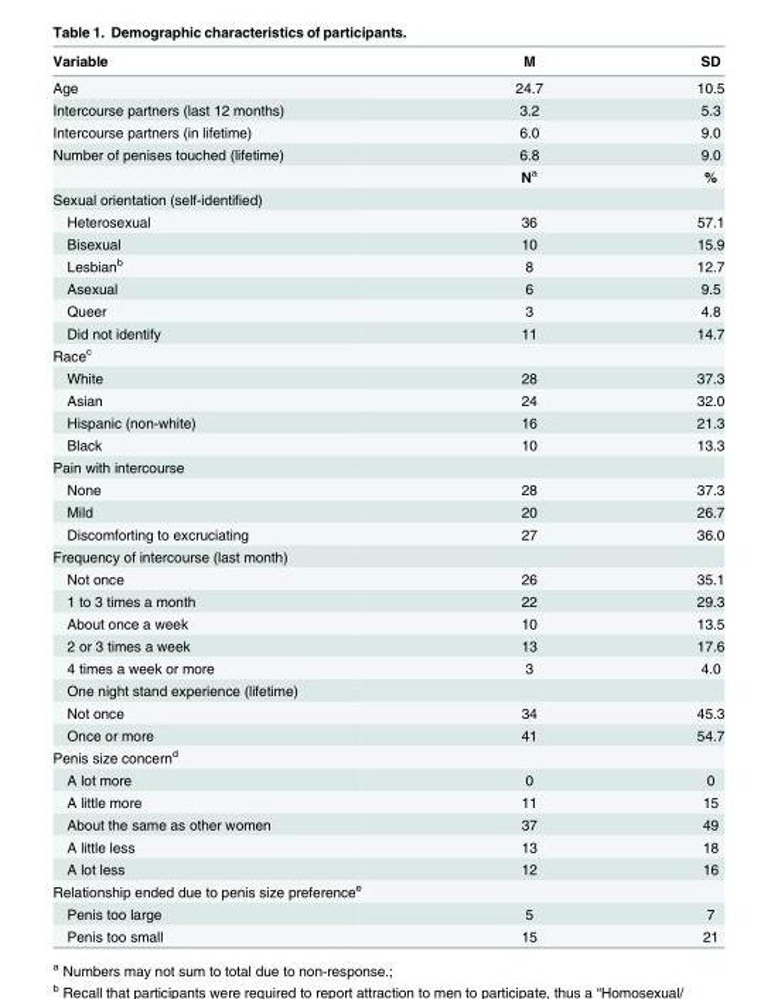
<table><thead><tr><td>Variable</td><td>M</td><td>SD</td></tr></thead><tbody><tr><td>Age</td><td>24.7</td><td>10.5</td></tr><tr><td>Intercourse partners (last 12 months)</td><td>3.2</td><td>5.3</td></tr><tr><td>Intercourse partners (in lifetime)</td><td>6.0</td><td>9.0</td></tr><tr><td rowspan="2">Number of penises touched (lifetime)</td><td>6.8</td><td>9.0</td></tr><tr><td>N<sup>a</sup></td><td>%</td></tr><tr><td colspan="3">Sexual orientation (self-identified)</td></tr><tr><td>Heterosexual</td><td>36</td><td>57.1</td></tr><tr><td>Bisexual</td><td>10</td><td>15.9</td></tr><tr><td>Lesbian<sup>b</sup></td><td>8</td><td>12.7</td></tr><tr><td>Asexual</td><td>6</td><td>9.5</td></tr><tr><td>Queer</td><td>3</td><td>4.8</td></tr><tr><td>Did not identify</td><td>11</td><td>14.7</td></tr><tr><td colspan="3">Race<sup>c</sup></td></tr><tr><td>White</td><td>28</td><td>37.3</td></tr><tr><td>Asian</td><td>24</td><td>32.0</td></tr><tr><td>Hispanic (non-white)</td><td>16</td><td>21.3</td></tr><tr><td>Black</td><td>10</td><td>13.3</td></tr><tr><td colspan="3">Pain with intercourse</td></tr><tr><td>None</td><td>28</td><td>37.3</td></tr><tr><td>Mild</td><td>20</td><td>26.7</td></tr><tr><td>Discomforting to excruciating</td><td>27</td><td>36.0</td></tr><tr><td colspan="3">Frequency of intercourse (last month)</td></tr><tr><td>Not once</td><td>26</td><td>35.1</td></tr><tr><td>1 to 3 times a month</td><td>22</td><td>29.3</td></tr><tr><td>About once a week</td><td>10</td><td>13.5</td></tr><tr><td>2 or 3 times a week</td><td>13</td><td>17.6</td></tr><tr><td>4 times a week or more</td><td>3</td><td>4.0</td></tr><tr><td colspan="3">One night stand experience (lifetime)</td></tr><tr><td>Not once</td><td>34</td><td>45.3</td></tr><tr><td>Once or more</td><td>41</td><td>54.7</td></tr><tr><td colspan="3">Penis size concern<sup>d</sup></td></tr><tr><td>A lot more</td><td>0</td><td>0</td></tr><tr><td>A little more</td><td>11</td><td>15</td></tr><tr><td>About the same as other women</td><td>37</td><td>49</td></tr><tr><td>A little less</td><td>13</td><td>18</td></tr><tr><td>A lot less</td><td>12</td><td>16</td></tr><tr><td colspan="3">Relationship ended due to penis size preference<sup>e</sup></td></tr><tr><td>Penis too large</td><td>5</td><td>7</td></tr><tr><td>Penis too small</td><td>15</td><td>21</td></tr></tbody></table>